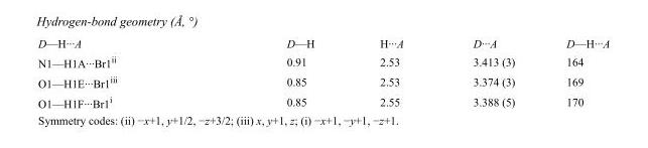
<table><tbody><tr><td>D—H···A</td><td>D—H</td><td>H···A</td><td>D···A</td><td>D—H···A</td></tr><tr><td>N1—H1A···Br1<sup>ii</sup></td><td>0.91</td><td>2.53</td><td>3.413 (3)</td><td>164</td></tr><tr><td>O1—H1E···Br1<sup>iii</sup></td><td>0.85</td><td>2.53</td><td>3.374 (3)</td><td>169</td></tr><tr><td>O1—H1F···Br1<sup>i</sup></td><td>0.85</td><td>2.55</td><td>3.388 (5)</td><td>170</td></tr></tbody></table>